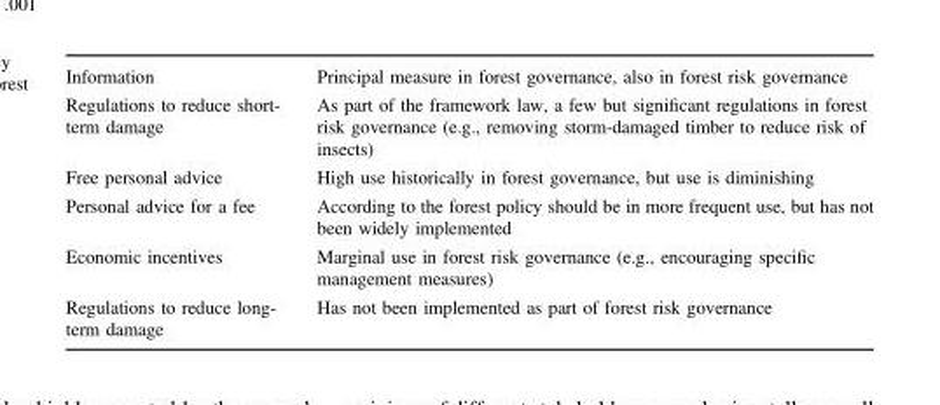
<table><tbody><tr><td>Information</td><td>Principal measure in forest governance, also in forest risk governance</td></tr><tr><td>Regulations to reduce short- term damage</td><td>As part of the framework law, a few but significant regulations in forest risk governance (e.g., removing storm-damaged timber to reduce risk of insects)</td></tr><tr><td>Free personal advice</td><td>High use historically in forest governance, but use is diminishing</td></tr><tr><td>Personal advice for a fee</td><td>According to the forest policy should be in more frequent use, but has not been widely implemented</td></tr><tr><td>Economic incentives</td><td>Marginal use in forest risk governance (e.g., encouraging specific management measures)</td></tr><tr><td>Regulations to reduce long- term damage</td><td>Has not been implemented as part of forest risk governance</td></tr></tbody></table>